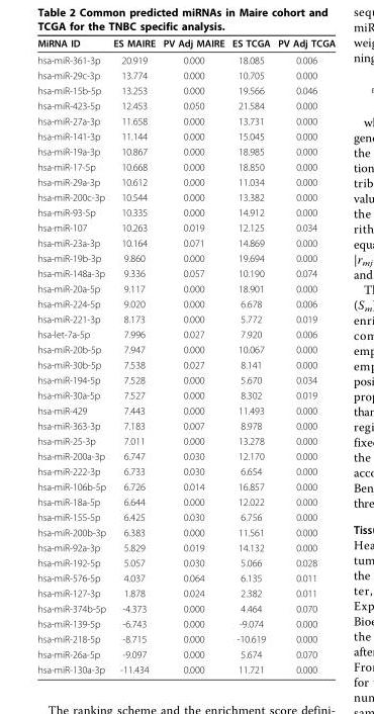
<table><thead><tr><td>MiRNA ID</td><td>ES MAIRE</td><td>PV Adj MAIRE</td><td>ES TCGA</td><td>PV Adj TCGA</td></tr></thead><tbody><tr><td>hsa-miR-361-3p</td><td>20.919</td><td>0.000</td><td>18.085</td><td>0.006</td></tr><tr><td>hsa-miR-29c-3p</td><td>13.774</td><td>0.000</td><td>10.705</td><td>0.000</td></tr><tr><td>hsa-miR-15b-5p</td><td>13.253</td><td>0.000</td><td>19.566</td><td>0.046</td></tr><tr><td>hsa-miR-423-5p</td><td>12.453</td><td>0.050</td><td>21.584</td><td>0.000</td></tr><tr><td>hsa-miR-27a-3p</td><td>11.658</td><td>0.000</td><td>13.731</td><td>0.000</td></tr><tr><td>hsa-miR-141-3p</td><td>11.144</td><td>0.000</td><td>15.045</td><td>0.000</td></tr><tr><td>hsa-miR-19a-3p</td><td>10.867</td><td>0.000</td><td>18.985</td><td>0.000</td></tr><tr><td>hsa-miR-17-5p</td><td>10.668</td><td>0.000</td><td>18.850</td><td>0.000</td></tr><tr><td>hsa-miR-29a-3p</td><td>10.612</td><td>0.000</td><td>11.034</td><td>0.000</td></tr><tr><td>hsa-miR-200c-3p</td><td>10.544</td><td>0.000</td><td>13.382</td><td>0.000</td></tr><tr><td>hsa-miR-93-5p</td><td>10.335</td><td>0.000</td><td>14.912</td><td>0.000</td></tr><tr><td>hsa-miR-107</td><td>10.263</td><td>0.019</td><td>12.125</td><td>0.034</td></tr><tr><td>hsa-miR-23a-3p</td><td>10.164</td><td>0.071</td><td>14.869</td><td>0.000</td></tr><tr><td>hsa-miR-19b-3p</td><td>9.860</td><td>0.000</td><td>19.694</td><td>0.000</td></tr><tr><td>hsa-miR-148a-3p</td><td>9.336</td><td>0.057</td><td>10.190</td><td>0.074</td></tr><tr><td>hsa-miR-20a-5p</td><td>9.117</td><td>0.000</td><td>18.901</td><td>0.000</td></tr><tr><td>hsa-miR-224-5p</td><td>9.020</td><td>0.000</td><td>6.678</td><td>0.006</td></tr><tr><td>hsa-miR-221-3p</td><td>8.173</td><td>0.000</td><td>5.772</td><td>0.019</td></tr><tr><td>hsa-let-7a-5p</td><td>7.996</td><td>0.027</td><td>7.920</td><td>0.006</td></tr><tr><td>hsa-miR-20b-5p</td><td>7.947</td><td>0.000</td><td>10.067</td><td>0.000</td></tr><tr><td>hsa-miR-30b-5p</td><td>7.538</td><td>0.027</td><td>8.141</td><td>0.000</td></tr><tr><td>hsa-miR-194-5p</td><td>7.528</td><td>0.000</td><td>5.670</td><td>0.034</td></tr><tr><td>hsa-miR-30a-5p</td><td>7.527</td><td>0.000</td><td>8.302</td><td>0.019</td></tr><tr><td>hsa-miR-429</td><td>7.443</td><td>0.000</td><td>11.493</td><td>0.000</td></tr><tr><td>hsa-miR-363-3p</td><td>7.183</td><td>0.007</td><td>8.978</td><td>0.000</td></tr><tr><td>hsa-miR-25-3p</td><td>7.011</td><td>0.000</td><td>13.278</td><td>0.000</td></tr><tr><td>hsa-miR-200a-3p</td><td>6.747</td><td>0.030</td><td>12.170</td><td>0.000</td></tr><tr><td>hsa-miR-222-3p</td><td>6.733</td><td>0.030</td><td>6.654</td><td>0.000</td></tr><tr><td>hsa-miR-106b-5p</td><td>6.726</td><td>0.014</td><td>16.857</td><td>0.000</td></tr><tr><td>hsa-miR-18a-5p</td><td>6.644</td><td>0.000</td><td>12.022</td><td>0.000</td></tr><tr><td>hsa-miR-155-5p</td><td>6.425</td><td>0.030</td><td>6.756</td><td>0.000</td></tr><tr><td>hsa-miR-200b-3p</td><td>6.383</td><td>0.000</td><td>11.561</td><td>0.000</td></tr><tr><td>hsa-miR-92a-3p</td><td>5.829</td><td>0.019</td><td>14.132</td><td>0.000</td></tr><tr><td>hsa-miR-192-5p</td><td>5.057</td><td>0.030</td><td>5.066</td><td>0.028</td></tr><tr><td>hsa-miR-576-5p</td><td>4.037</td><td>0.064</td><td>6.135</td><td>0.011</td></tr><tr><td>hsa-miR-127-3p</td><td>1.878</td><td>0.024</td><td>2.382</td><td>0.011</td></tr><tr><td>hsa-miR-374b-5p</td><td>-4.373</td><td>0.000</td><td>4.464</td><td>0.070</td></tr><tr><td>hsa-miR-139-5p</td><td>-6.743</td><td>0.000</td><td>-9.074</td><td>0.000</td></tr><tr><td>hsa-miR-218-5p</td><td>-8.715</td><td>0.000</td><td>-10.619</td><td>0.000</td></tr><tr><td>hsa-miR-26a-5p</td><td>-9.097</td><td>0.000</td><td>5.674</td><td>0.070</td></tr><tr><td>hsa-miR-130a-3p</td><td>-11.434</td><td>0.000</td><td>11.721</td><td>0.000</td></tr></tbody></table>